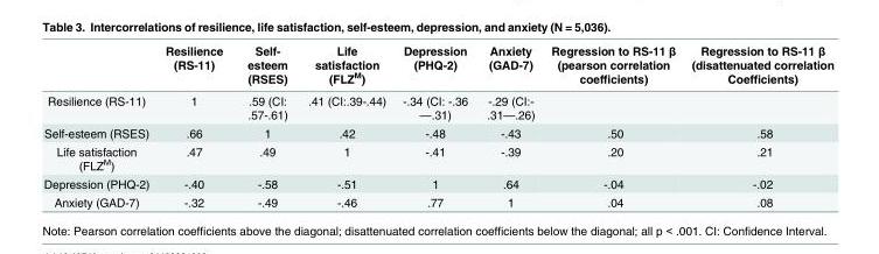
<table><thead><tr><td></td><td>Resilience (RS-11)</td><td>Self- esteem (RSES)</td><td>Life satisfaction (FLZ<sup>M</sup>)</td><td>Depression (PHQ-2)</td><td>Anxiety (GAD-7)</td><td>Regression to RS-11 β (pearson correlation coefficients)</td><td>Regression to RS-11 β (disattenuated correlation Coefficients)</td></tr></thead><tbody><tr><td>Resilience (RS-11)</td><td>1</td><td>.59 (CI: .57-.61)</td><td>.41 (CI:.39-.44)</td><td>-.34 (CI: -.36 —.31)</td><td>-.29 (CI:- .31—.26)</td><td></td><td></td></tr><tr><td>Self-esteem (RSES)</td><td>.66</td><td>1</td><td>.42</td><td>-.48</td><td>-.43</td><td>.50</td><td>.58</td></tr><tr><td>Life satisfaction (FLZ<sup>M</sup>)</td><td>.47</td><td>.49</td><td>1</td><td>-.41</td><td>-.39</td><td>.20</td><td>.21</td></tr><tr><td>Depression (PHQ-2)</td><td>-.40</td><td>-.58</td><td>-.51</td><td>1</td><td>.64</td><td>-.04</td><td>-.02</td></tr><tr><td>Anxiety (GAD-7)</td><td>-.32</td><td>-.49</td><td>-.46</td><td>.77</td><td>1</td><td>.04</td><td>.08</td></tr></tbody></table>